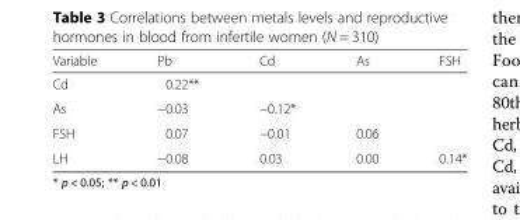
<table><thead><tr><td>Variable</td><td>Pb</td><td>Cd</td><td>As</td><td>FSH</td></tr></thead><tbody><tr><td>Cd</td><td>0.22**</td><td></td><td></td><td></td></tr><tr><td>As</td><td>−0.03</td><td>−0.12*</td><td></td><td></td></tr><tr><td>FSH</td><td>0.07</td><td>−0.01</td><td>0.06</td><td></td></tr><tr><td>LH</td><td>−0.08</td><td>0.03</td><td>0.00</td><td>0.14*</td></tr></tbody></table>